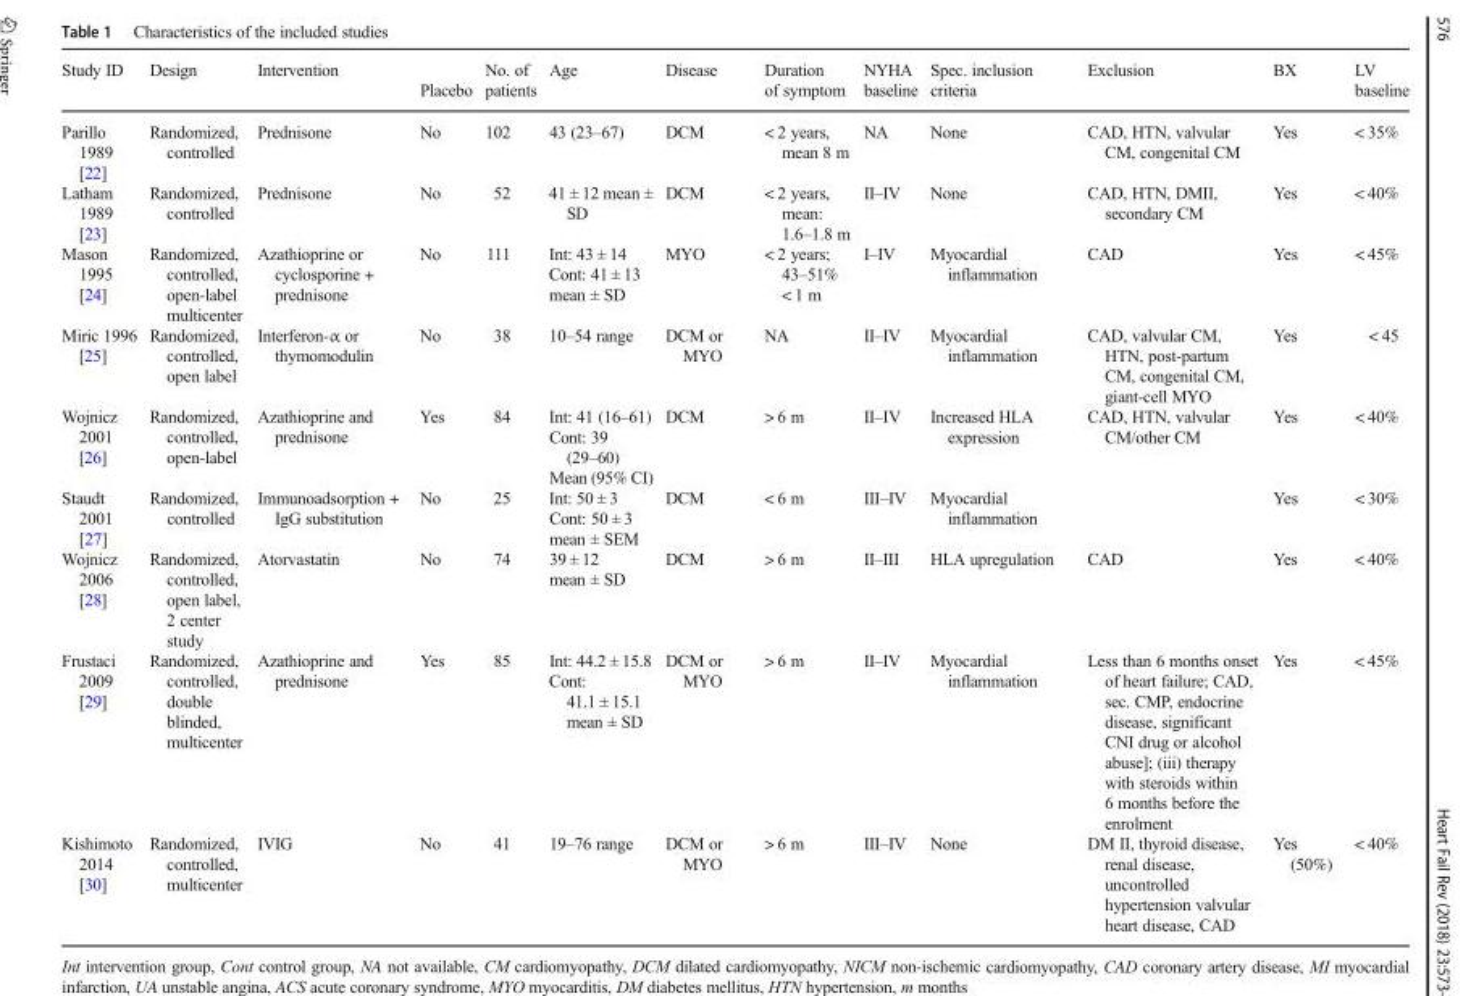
<table><thead><tr><td>Study ID</td><td>Design</td><td>Intervention</td><td>Placebo</td><td>No. of patients</td><td>Age</td><td>Disease</td><td>Duration of symptom</td><td>NYHA baseline</td><td>Spec. inclusion criteria</td><td>Exclusion</td><td>BX</td><td>LV baseline</td></tr></thead><tbody><tr><td>Parillo 1989 [22]</td><td>Randomized, controlled</td><td>Prednisone</td><td>No</td><td>102</td><td>43 (23–67)</td><td>DCM</td><td>&lt; 2 years, mean 8 m</td><td>NA</td><td>None</td><td>CAD, HTN, valvular CM, congenital CM</td><td>Yes</td><td>&lt; 35%</td></tr><tr><td>Latham 1989 [23]</td><td>Randomized, controlled</td><td>Prednisone</td><td>No</td><td>52</td><td>41 ± 12 mean ± SD</td><td>DCM</td><td>&lt; 2 years, mean: 1.6–1.8 m</td><td>II–IV</td><td>None</td><td>CAD, HTN, DMII, secondary CM</td><td>Yes</td><td>&lt; 40%</td></tr><tr><td>Mason 1995 [24]</td><td>Randomized, controlled, open-label multicenter</td><td>Azathioprine or cyclosporine + prednisone</td><td>No</td><td>111</td><td>Int: 43 ± 14 Cont: 41 ± 13 mean ± SD</td><td>MYO</td><td>&lt; 2 years; 43–51% &lt; 1 m</td><td>I–IV</td><td>Myocardial inflammation</td><td>CAD</td><td>Yes</td><td>&lt; 45%</td></tr><tr><td>Miric 1996 [25]</td><td>Randomized, controlled, open label</td><td>Interferon-α or thymomodulin</td><td>No</td><td>38</td><td>10–54 range</td><td>DCM or MYO</td><td>NA</td><td>II–IV</td><td>Myocardial inflammation</td><td>CAD, valvular CM, HTN, post-partum CM, congenital CM, giant-cell MYO</td><td>Yes</td><td>&lt; 45</td></tr><tr><td>Wojnicz 2001 [26]</td><td>Randomized, controlled, open-label</td><td>Azathioprine and prednisone</td><td>Yes</td><td>84</td><td>Int: 41 (16–61) Cont: 39 (29–60) Mean (95% CI)</td><td>DCM</td><td>&gt; 6 m</td><td>II–IV</td><td>Increased HLA expression</td><td>CAD, HTN, valvular CM/other CM</td><td>Yes</td><td>&lt; 40%</td></tr><tr><td>Staudt 2001 [27]</td><td>Randomized, controlled</td><td>Immunoadsorption + IgG substitution</td><td>No</td><td>25</td><td>Int: 50 ± 3 Cont: 50 ± 3 mean ± SEM</td><td>DCM</td><td>&lt; 6 m</td><td>III–IV</td><td>Myocardial inflammation</td><td></td><td>Yes</td><td>&lt; 30%</td></tr><tr><td>Wojnicz 2006 [28]</td><td>Randomized, controlled, open label, 2 center study</td><td>Atorvastatin</td><td>No</td><td>74</td><td>39 ± 12 mean ± SD</td><td>DCM</td><td>&gt; 6 m</td><td>II–III</td><td>HLA upregulation</td><td>CAD</td><td>Yes</td><td>&lt; 40%</td></tr><tr><td>Frustaci 2009 [29]</td><td>Randomized, controlled, double blinded, multicenter</td><td>Azathioprine and prednisone</td><td>Yes</td><td>85</td><td>Int: 44.2 ± 15.8 Cont: 41.1 ± 15.1 mean ± SD</td><td>DCM or MYO</td><td>&gt; 6 m</td><td>II–IV</td><td>Myocardial inflammation</td><td>Less than 6 months onset of heart failure; CAD, sec. CMP, endocrine disease, significant CNI drug or alcohol abuse]; (iii) therapy with steroids within 6 months before the enrolment</td><td>Yes</td><td>&lt; 45%</td></tr><tr><td>Kishimoto 2014 [30]</td><td>Randomized, controlled, multicenter</td><td>IVIG</td><td>No</td><td>41</td><td>19–76 range</td><td>DCM or MYO</td><td>&gt; 6 m</td><td>III–IV</td><td>None</td><td>DM II, thyroid disease, renal disease, uncontrolled hypertension valvular heart disease, CAD</td><td>Yes (50%)</td><td>&lt; 40%</td></tr></tbody></table>